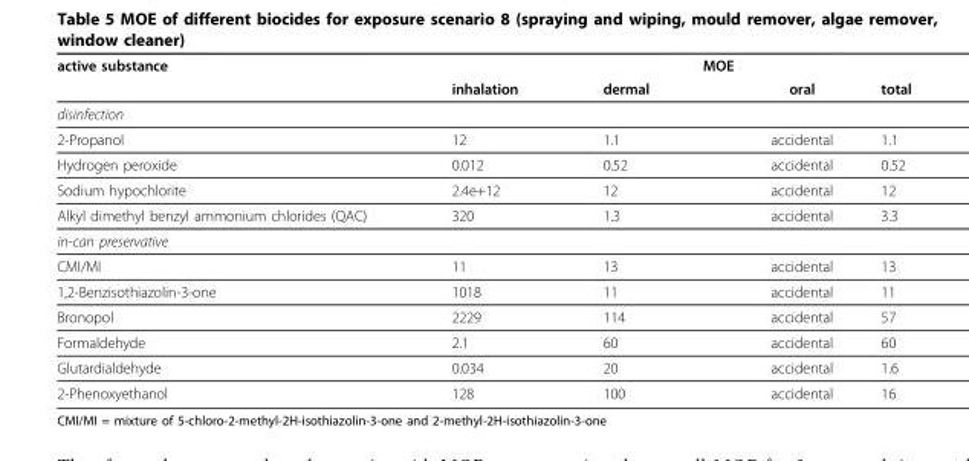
<table><thead><tr><td rowspan="2">active substance</td><td colspan="4">MOE</td></tr><tr><td>inhalation</td><td>dermal</td><td>oral</td><td>total</td></tr></thead><tbody><tr><td colspan="5">disinfection</td></tr><tr><td>2-Propanol</td><td>12</td><td>1.1</td><td>accidental</td><td>1.1</td></tr><tr><td>Hydrogen peroxide</td><td>0.012</td><td>0.52</td><td>accidental</td><td>0.52</td></tr><tr><td>Sodium hypochlorite</td><td>2.4e+12</td><td>12</td><td>accidental</td><td>12</td></tr><tr><td>Alkyl dimethyl benzyl ammonium chlorides (QAC)</td><td>320</td><td>1.3</td><td>accidental</td><td>3.3</td></tr><tr><td colspan="5">in-can preservative</td></tr><tr><td>CMI/MI</td><td>11</td><td>13</td><td>accidental</td><td>13</td></tr><tr><td>1,2-Benzisothiazolin-3-one</td><td>1018</td><td>11</td><td>accidental</td><td>11</td></tr><tr><td>Bronopol</td><td>2229</td><td>114</td><td>accidental</td><td>57</td></tr><tr><td>Formaldehyde</td><td>2.1</td><td>60</td><td>accidental</td><td>60</td></tr><tr><td>Glutardialdehyde</td><td>0.034</td><td>20</td><td>accidental</td><td>1.6</td></tr><tr><td>2-Phenoxyethanol</td><td>128</td><td>100</td><td>accidental</td><td>16</td></tr></tbody></table>